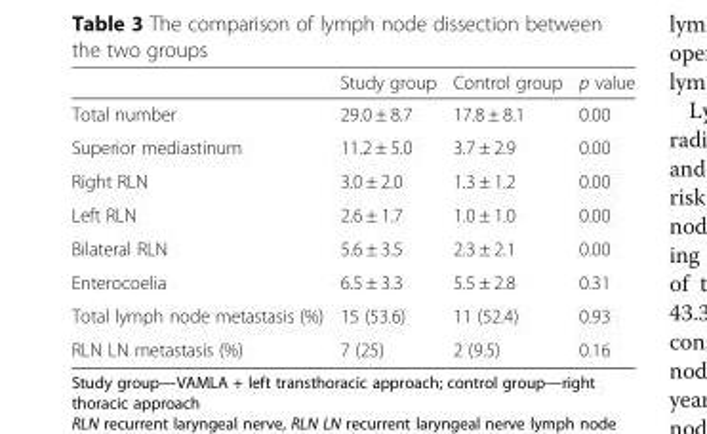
<table><thead><tr><td></td><td>Study group</td><td>Control group</td><td>p value</td></tr></thead><tbody><tr><td>Total number</td><td>29.0 ± 8.7</td><td>17.8 ± 8.1</td><td>0.00</td></tr><tr><td>Superior mediastinum</td><td>11.2 ± 5.0</td><td>3.7 ± 2.9</td><td>0.00</td></tr><tr><td>Right RLN</td><td>3.0 ± 2.0</td><td>1.3 ± 1.2</td><td>0.00</td></tr><tr><td>Left RLN</td><td>2.6 ± 1.7</td><td>1.0 ± 1.0</td><td>0.00</td></tr><tr><td>Bilateral RLN</td><td>5.6 ± 3.5</td><td>2.3 ± 2.1</td><td>0.00</td></tr><tr><td>Enterocoelia</td><td>6.5 ± 3.3</td><td>5.5 ± 2.8</td><td>0.31</td></tr><tr><td>Total lymph node metastasis (%)</td><td>15 (53.6)</td><td>11 (52.4)</td><td>0.93</td></tr><tr><td>RLN LN metastasis (%)</td><td>7 (25)</td><td>2 (9.5)</td><td>0.16</td></tr></tbody></table>